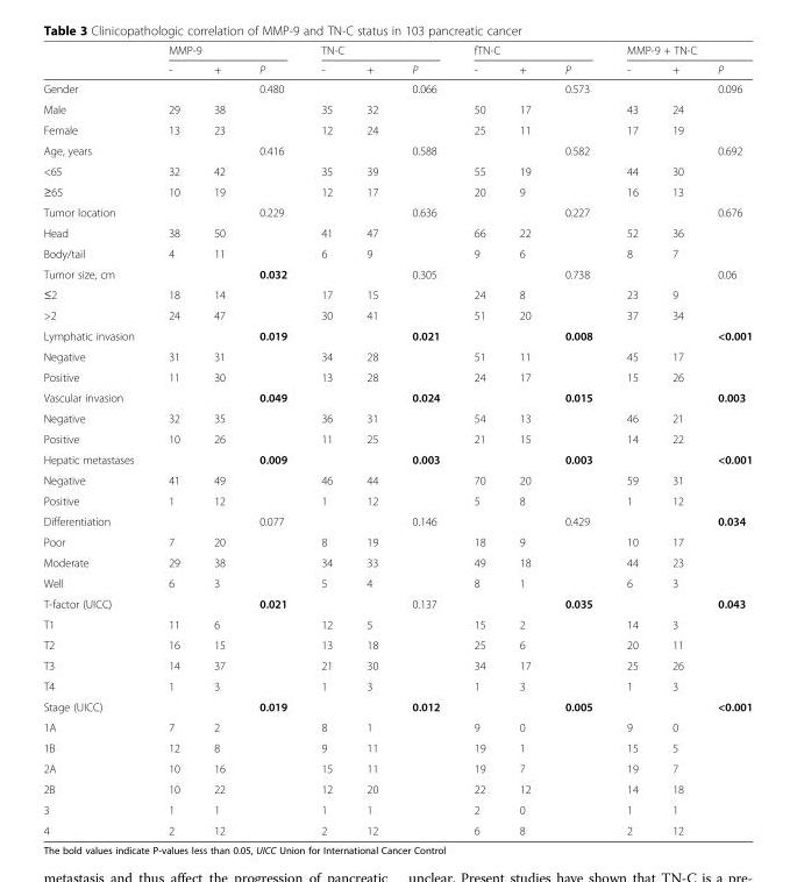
<table><thead><tr><td rowspan="2"></td><td colspan="3">MMP-9</td><td colspan="3">TN-C</td><td colspan="3">fTN-C</td><td colspan="3">MMP-9 + TN-C</td></tr><tr><td>-</td><td>+</td><td>P</td><td>-</td><td>+</td><td>P</td><td>-</td><td>+</td><td>P</td><td>-</td><td>+</td><td>P</td></tr></thead><tbody><tr><td>Gender</td><td></td><td></td><td>0.480</td><td></td><td></td><td>0.066</td><td></td><td></td><td>0.573</td><td></td><td></td><td>0.096</td></tr><tr><td>Male</td><td>29</td><td>38</td><td></td><td>35</td><td>32</td><td></td><td>50</td><td>17</td><td></td><td>43</td><td>24</td><td></td></tr><tr><td>Female</td><td>13</td><td>23</td><td></td><td>12</td><td>24</td><td></td><td>25</td><td>11</td><td></td><td>17</td><td>19</td><td></td></tr><tr><td>Age, years</td><td></td><td></td><td>0.416</td><td></td><td></td><td>0.588</td><td></td><td></td><td>0.582</td><td></td><td></td><td>0.692</td></tr><tr><td>&lt;65</td><td>32</td><td>42</td><td></td><td>35</td><td>39</td><td></td><td>55</td><td>19</td><td></td><td>44</td><td>30</td><td></td></tr><tr><td>≥65</td><td>10</td><td>19</td><td></td><td>12</td><td>17</td><td></td><td>20</td><td>9</td><td></td><td>16</td><td>13</td><td></td></tr><tr><td>Tumor location</td><td></td><td></td><td>0.229</td><td></td><td></td><td>0.636</td><td></td><td></td><td>0.227</td><td></td><td></td><td>0.676</td></tr><tr><td>Head</td><td>38</td><td>50</td><td></td><td>41</td><td>47</td><td></td><td>66</td><td>22</td><td></td><td>52</td><td>36</td><td></td></tr><tr><td>Body/tail</td><td>4</td><td>11</td><td></td><td>6</td><td>9</td><td></td><td>9</td><td>6</td><td></td><td>8</td><td>7</td><td></td></tr><tr><td>Tumor size, cm</td><td></td><td></td><td>0.032</td><td></td><td></td><td>0.305</td><td></td><td></td><td>0.738</td><td></td><td></td><td>0.06</td></tr><tr><td>≤2</td><td>18</td><td>14</td><td></td><td>17</td><td>15</td><td></td><td>24</td><td>8</td><td></td><td>23</td><td>9</td><td></td></tr><tr><td>&gt;2</td><td>24</td><td>47</td><td></td><td>30</td><td>41</td><td></td><td>51</td><td>20</td><td></td><td>37</td><td>34</td><td></td></tr><tr><td>Lymphatic invasion</td><td></td><td></td><td>0.019</td><td></td><td></td><td>0.021</td><td></td><td></td><td>0.008</td><td></td><td></td><td>&lt;0.001</td></tr><tr><td>Negative</td><td>31</td><td>31</td><td></td><td>34</td><td>28</td><td></td><td>51</td><td>11</td><td></td><td>45</td><td>17</td><td></td></tr><tr><td>Positive</td><td>11</td><td>30</td><td></td><td>13</td><td>28</td><td></td><td>24</td><td>17</td><td></td><td>15</td><td>26</td><td></td></tr><tr><td>Vascular invasion</td><td></td><td></td><td>0.049</td><td></td><td></td><td>0.024</td><td></td><td></td><td>0.015</td><td></td><td></td><td>0.003</td></tr><tr><td>Negative</td><td>32</td><td>35</td><td></td><td>36</td><td>31</td><td></td><td>54</td><td>13</td><td></td><td>46</td><td>21</td><td></td></tr><tr><td>Positive</td><td>10</td><td>26</td><td></td><td>11</td><td>25</td><td></td><td>21</td><td>15</td><td></td><td>14</td><td>22</td><td></td></tr><tr><td>Hepatic metastases</td><td></td><td></td><td>0.009</td><td></td><td></td><td>0.003</td><td></td><td></td><td>0.003</td><td></td><td></td><td>&lt;0.001</td></tr><tr><td>Negative</td><td>41</td><td>49</td><td></td><td>46</td><td>44</td><td></td><td>70</td><td>20</td><td></td><td>59</td><td>31</td><td></td></tr><tr><td>Positive</td><td>1</td><td>12</td><td></td><td>1</td><td>12</td><td></td><td>5</td><td>8</td><td></td><td>1</td><td>12</td><td></td></tr><tr><td>Differentiation</td><td></td><td></td><td>0.077</td><td></td><td></td><td>0.146</td><td></td><td></td><td>0.429</td><td></td><td></td><td>0.034</td></tr><tr><td>Poor</td><td>7</td><td>20</td><td></td><td>8</td><td>19</td><td></td><td>18</td><td>9</td><td></td><td>10</td><td>17</td><td></td></tr><tr><td>Moderate</td><td>29</td><td>38</td><td></td><td>34</td><td>33</td><td></td><td>49</td><td>18</td><td></td><td>44</td><td>23</td><td></td></tr><tr><td>Well</td><td>6</td><td>3</td><td></td><td>5</td><td>4</td><td></td><td>8</td><td>1</td><td></td><td>6</td><td>3</td><td></td></tr><tr><td>T-factor (UICC)</td><td></td><td></td><td>0.021</td><td></td><td></td><td>0.137</td><td></td><td></td><td>0.035</td><td></td><td></td><td>0.043</td></tr><tr><td>T1</td><td>11</td><td>6</td><td></td><td>12</td><td>5</td><td></td><td>15</td><td>2</td><td></td><td>14</td><td>3</td><td></td></tr><tr><td>T2</td><td>16</td><td>15</td><td></td><td>13</td><td>18</td><td></td><td>25</td><td>6</td><td></td><td>20</td><td>11</td><td></td></tr><tr><td>T3</td><td>14</td><td>37</td><td></td><td>21</td><td>30</td><td></td><td>34</td><td>17</td><td></td><td>25</td><td>26</td><td></td></tr><tr><td>T4</td><td>1</td><td>3</td><td></td><td>1</td><td>3</td><td></td><td>1</td><td>3</td><td></td><td>1</td><td>3</td><td></td></tr><tr><td>Stage (UICC)</td><td></td><td></td><td>0.019</td><td></td><td></td><td>0.012</td><td></td><td></td><td>0.005</td><td></td><td></td><td>&lt;0.001</td></tr><tr><td>1A</td><td>7</td><td>2</td><td></td><td>8</td><td>1</td><td></td><td>9</td><td>0</td><td></td><td>9</td><td>0</td><td></td></tr><tr><td>1B</td><td>12</td><td>8</td><td></td><td>9</td><td>11</td><td></td><td>19</td><td>1</td><td></td><td>15</td><td>5</td><td></td></tr><tr><td>2A</td><td>10</td><td>16</td><td></td><td>15</td><td>11</td><td></td><td>19</td><td>7</td><td></td><td>19</td><td>7</td><td></td></tr><tr><td>2B</td><td>10</td><td>22</td><td></td><td>12</td><td>20</td><td></td><td>22</td><td>12</td><td></td><td>14</td><td>18</td><td></td></tr><tr><td>3</td><td>1</td><td>1</td><td></td><td>1</td><td>1</td><td></td><td>2</td><td>0</td><td></td><td>1</td><td>1</td><td></td></tr><tr><td>4</td><td>2</td><td>12</td><td></td><td>2</td><td>12</td><td></td><td>6</td><td>8</td><td></td><td>2</td><td>12</td><td></td></tr></tbody></table>